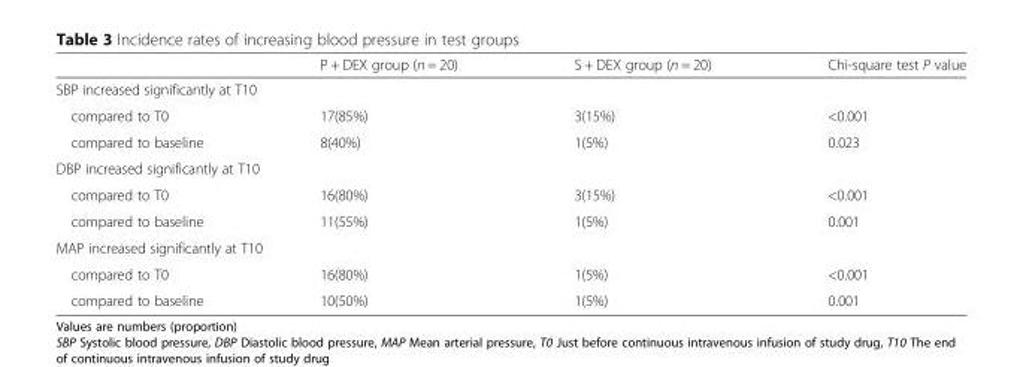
<table><thead><tr><td></td><td>P + DEX group (n = 20)</td><td>S + DEX group (n = 20)</td><td>Chi-square test P value</td></tr></thead><tbody><tr><td colspan="4">SBP increased significantly at T10</td></tr><tr><td>compared to T0</td><td>17(85%)</td><td>3(15%)</td><td>&lt;0.001</td></tr><tr><td>compared to baseline</td><td>8(40%)</td><td>1(5%)</td><td>0.023</td></tr><tr><td colspan="4">DBP increased significantly at T10</td></tr><tr><td>compared to T0</td><td>16(80%)</td><td>3(15%)</td><td>&lt;0.001</td></tr><tr><td>compared to baseline</td><td>11(55%)</td><td>1(5%)</td><td>0.001</td></tr><tr><td colspan="4">MAP increased significantly at T10</td></tr><tr><td>compared to T0</td><td>16(80%)</td><td>1(5%)</td><td>&lt;0.001</td></tr><tr><td>compared to baseline</td><td>10(50%)</td><td>1(5%)</td><td>0.001</td></tr></tbody></table>